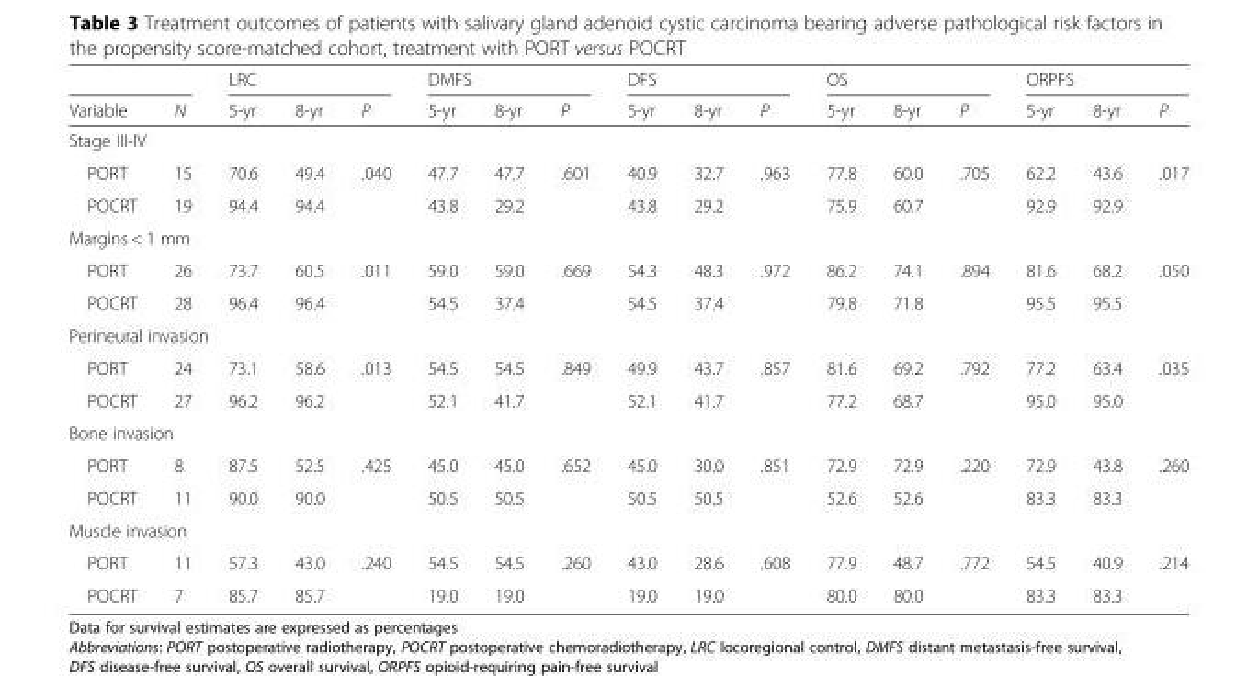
<table><thead><tr><td rowspan="2">Variable</td><td rowspan="2">N</td><td colspan="3">LRC</td><td colspan="3">DMFS</td><td colspan="3">DFS</td><td colspan="3">OS</td><td colspan="3">ORPFS</td></tr><tr><td>5-yr</td><td>8-yr</td><td>P</td><td>5-yr</td><td>8-yr</td><td>P</td><td>5-yr</td><td>8-yr</td><td>P</td><td>5-yr</td><td>8-yr</td><td>P</td><td>5-yr</td><td>8-yr</td><td>P</td></tr></thead><tbody><tr><td colspan="17">Stage III-IV</td></tr><tr><td>PORT</td><td>15</td><td>70.6</td><td>49.4</td><td>.040</td><td>47.7</td><td>47.7</td><td>.601</td><td>40.9</td><td>32.7</td><td>.963</td><td>77.8</td><td>60.0</td><td>.705</td><td>62.2</td><td>43.6</td><td>.017</td></tr><tr><td>POCRT</td><td>19</td><td>94.4</td><td>94.4</td><td></td><td>43.8</td><td>29.2</td><td></td><td>43.8</td><td>29.2</td><td></td><td>75.9</td><td>60.7</td><td></td><td>92.9</td><td>92.9</td><td></td></tr><tr><td colspan="17">Margins &lt; 1 mm</td></tr><tr><td>PORT</td><td>26</td><td>73.7</td><td>60.5</td><td>.011</td><td>59.0</td><td>59.0</td><td>.669</td><td>54.3</td><td>48.3</td><td>.972</td><td>86.2</td><td>74.1</td><td>.894</td><td>81.6</td><td>68.2</td><td>.050</td></tr><tr><td>POCRT</td><td>28</td><td>96.4</td><td>96.4</td><td></td><td>54.5</td><td>37.4</td><td></td><td>54.5</td><td>37.4</td><td></td><td>79.8</td><td>71.8</td><td></td><td>95.5</td><td>95.5</td><td></td></tr><tr><td colspan="17">Perineural invasion</td></tr><tr><td>PORT</td><td>24</td><td>73.1</td><td>58.6</td><td>.013</td><td>54.5</td><td>54.5</td><td>.849</td><td>49.9</td><td>43.7</td><td>.857</td><td>81.6</td><td>69.2</td><td>.792</td><td>77.2</td><td>63.4</td><td>.035</td></tr><tr><td>POCRT</td><td>27</td><td>96.2</td><td>96.2</td><td></td><td>52.1</td><td>41.7</td><td></td><td>52.1</td><td>41.7</td><td></td><td>77.2</td><td>68.7</td><td></td><td>95.0</td><td>95.0</td><td></td></tr><tr><td colspan="17">Bone invasion</td></tr><tr><td>PORT</td><td>8</td><td>87.5</td><td>52.5</td><td>.425</td><td>45.0</td><td>45.0</td><td>.652</td><td>45.0</td><td>30.0</td><td>.851</td><td>72.9</td><td>72.9</td><td>.220</td><td>72.9</td><td>43.8</td><td>.260</td></tr><tr><td>POCRT</td><td>11</td><td>90.0</td><td>90.0</td><td></td><td>50.5</td><td>50.5</td><td></td><td>50.5</td><td>50.5</td><td></td><td>52.6</td><td>52.6</td><td></td><td>83.3</td><td>83.3</td><td></td></tr><tr><td colspan="17">Muscle invasion</td></tr><tr><td>PORT</td><td>11</td><td>57.3</td><td>43.0</td><td>.240</td><td>54.5</td><td>54.5</td><td>.260</td><td>43.0</td><td>28.6</td><td>.608</td><td>77.9</td><td>48.7</td><td>.772</td><td>54.5</td><td>40.9</td><td>.214</td></tr><tr><td>POCRT</td><td>7</td><td>85.7</td><td>85.7</td><td></td><td>19.0</td><td>19.0</td><td></td><td>19.0</td><td>19.0</td><td></td><td>80.0</td><td>80.0</td><td></td><td>83.3</td><td>83.3</td><td></td></tr></tbody></table>